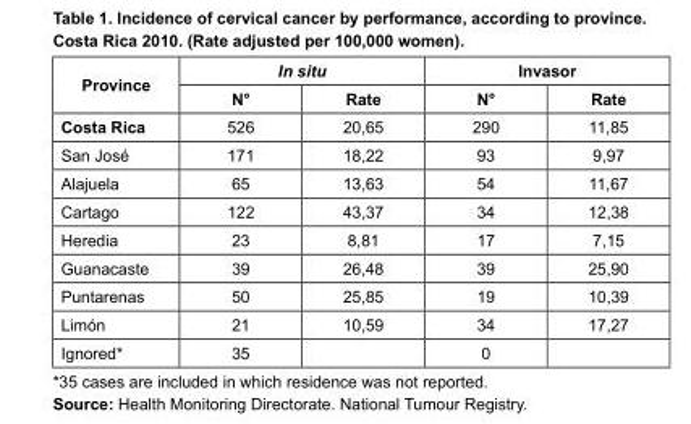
<table><thead><tr><td rowspan="2">Province</td><td colspan="2">In situ</td><td colspan="2">Invasor</td></tr><tr><td>N°</td><td>Rate</td><td>N°</td><td>Rate</td></tr></thead><tbody><tr><td>Costa Rica</td><td>526</td><td>20,65</td><td>290</td><td>11,85</td></tr><tr><td>San José</td><td>171</td><td>18,22</td><td>93</td><td>9,97</td></tr><tr><td>Alajuela</td><td>65</td><td>13,63</td><td>54</td><td>11,67</td></tr><tr><td>Cartago</td><td>122</td><td>43,37</td><td>34</td><td>12,38</td></tr><tr><td>Heredia</td><td>23</td><td>8,81</td><td>17</td><td>7,15</td></tr><tr><td>Guanacaste</td><td>39</td><td>26,48</td><td>39</td><td>25,90</td></tr><tr><td>Puntarenas</td><td>50</td><td>25,85</td><td>19</td><td>10,39</td></tr><tr><td>Limón</td><td>21</td><td>10,59</td><td>34</td><td>17,27</td></tr><tr><td>Ignored*</td><td>35</td><td></td><td>0</td><td></td></tr></tbody></table>